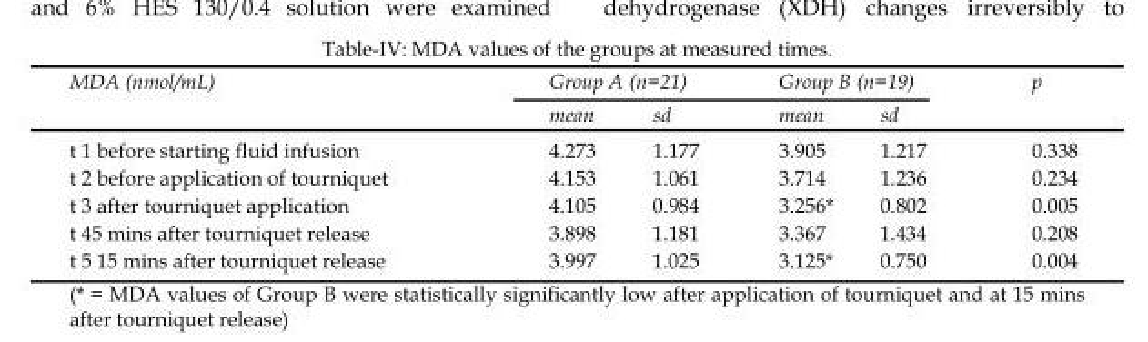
<table><thead><tr><td rowspan="2">MDA (nmol/mL)</td><td colspan="2">Group A (n=21)</td><td colspan="2">Group B (n=19)</td><td rowspan="2">p</td></tr><tr><td>mean</td><td>sd</td><td>mean</td><td>sd</td></tr></thead><tbody><tr><td>t 1 before starting fluid infusion</td><td>4.273</td><td>1.177</td><td>3.905</td><td>1.217</td><td>0.338</td></tr><tr><td>t 2 before application of tourniquet</td><td>4.153</td><td>1.061</td><td>3.714</td><td>1.236</td><td>0.234</td></tr><tr><td>t 3 after tourniquet application</td><td>4.105</td><td>0.984</td><td>3.256*</td><td>0.802</td><td>0.005</td></tr><tr><td>t 45 mins after tourniquet release</td><td>3.898</td><td>1.181</td><td>3.367</td><td>1.434</td><td>0.208</td></tr><tr><td>t 5 15 mins after tourniquet release</td><td>3.997</td><td>1.025</td><td>3.125*</td><td>0.750</td><td>0.004</td></tr></tbody></table>